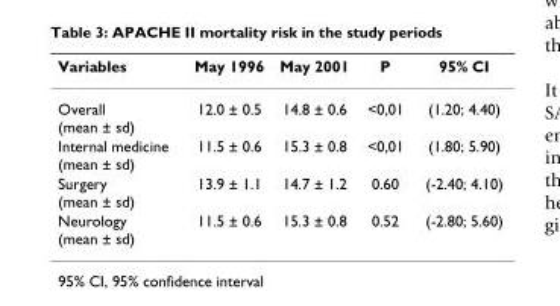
<table><thead><tr><td>Variables</td><td>May 1996</td><td>May 2001</td><td>P</td><td>95% CI</td></tr></thead><tbody><tr><td>Overall (mean ± sd)</td><td>12.0 ± 0.5</td><td>14.8 ± 0.6</td><td>&lt;0,01</td><td>(1.20; 4.40)</td></tr><tr><td>Internal medicine (mean ± sd)</td><td>11.5 ± 0.6</td><td>15.3 ± 0.8</td><td>&lt;0,01</td><td>(1.80; 5.90)</td></tr><tr><td>Surgery (mean ± sd)</td><td>13.9 ± 1.1</td><td>14.7 ± 1.2</td><td>0.60</td><td>(-2.40; 4.10)</td></tr><tr><td>Neurology (mean ± sd)</td><td>11.5 ± 0.6</td><td>15.3 ± 0.8</td><td>0.52</td><td>(-2.80; 5.60)</td></tr></tbody></table>